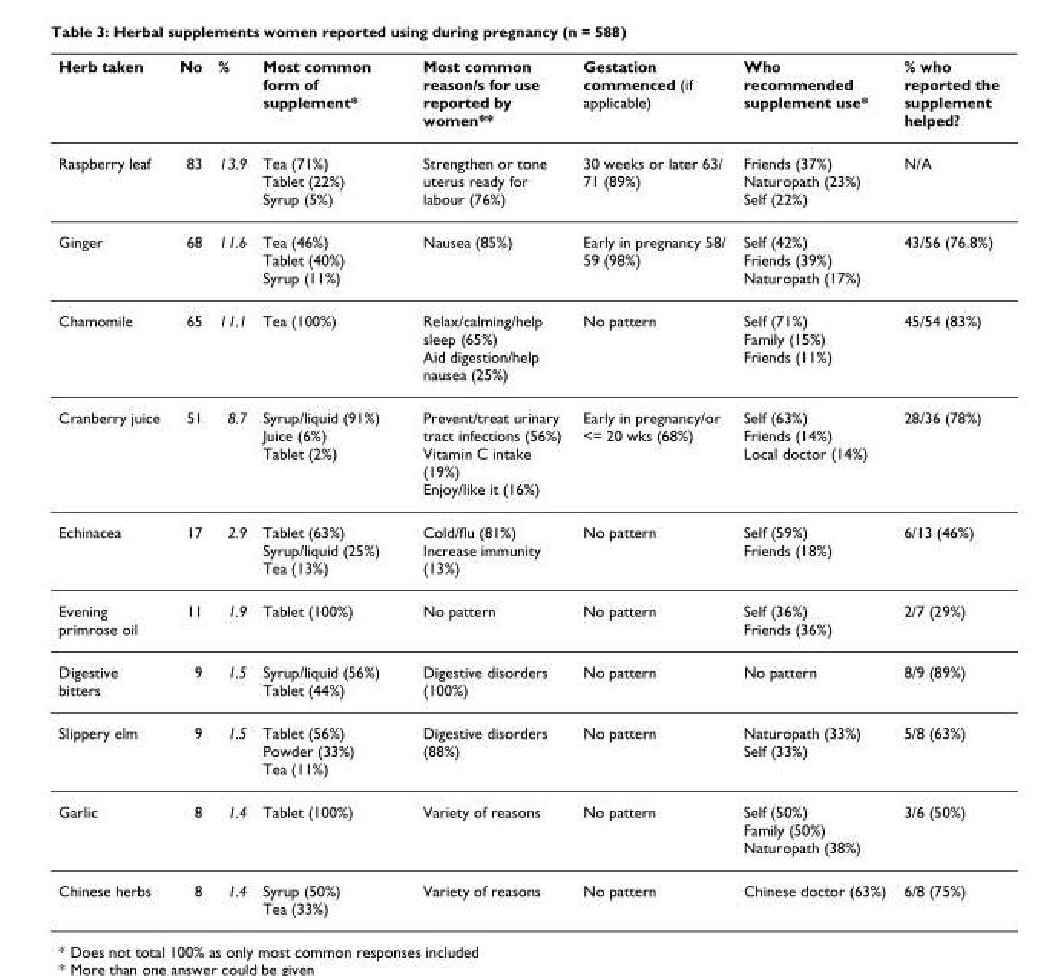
<table><thead><tr><td>Herb taken</td><td>No</td><td>%</td><td>Most common form of supplement*</td><td>Most common reason/s for use reported by women**</td><td>Gestation commenced (if applicable)</td><td>Who recommended supplement use*</td><td>% who reported the supplement helped?</td></tr></thead><tbody><tr><td>Raspberry leaf</td><td>83</td><td>13.9</td><td>Tea (71%) Tablet (22%) Syrup (5%)</td><td>Strengthen or tone uterus ready for labour (76%)</td><td>30 weeks or later 63/ 71 (89%)</td><td>Friends (37%) Naturopath (23%) Self (22%)</td><td>N/A</td></tr><tr><td>Ginger</td><td>68</td><td>11.6</td><td>Tea (46%) Tablet (40%) Syrup (11%)</td><td>Nausea (85%)</td><td>Early in pregnancy 58/ 59 (98%)</td><td>Self (42%) Friends (39%) Naturopath (17%)</td><td>43/56 (76.8%)</td></tr><tr><td>Chamomile</td><td>65</td><td>11.1</td><td>Tea (100%)</td><td>Relax/calming/help sleep (65%) Aid digestion/help nausea (25%)</td><td>No pattern</td><td>Self (71%) Family (15%) Friends (11%)</td><td>45/54 (83%)</td></tr><tr><td>Cranberry juice</td><td>51</td><td>8.7</td><td>Syrup/liquid (91%) Juice (6%) Tablet (2%)</td><td>Prevent/treat urinary tract infections (56%) Vitamin C intake (19%) Enjoy/like it (16%)</td><td>Early in pregnancy/or &lt;= 20 wks (68%)</td><td>Self (63%) Friends (14%) Local doctor (14%)</td><td>28/36 (78%)</td></tr><tr><td>Echinacea</td><td>17</td><td>2.9</td><td>Tablet (63%) Syrup/liquid (25%) Tea (13%)</td><td>Cold/flu (81%) Increase immunity (13%)</td><td>No pattern</td><td>Self (59%) Friends (18%)</td><td>6/13 (46%)</td></tr><tr><td>Evening primrose oil</td><td>11</td><td>1.9</td><td>Tablet (100%)</td><td>No pattern</td><td>No pattern</td><td>Self (36%) Friends (36%)</td><td>2/7 (29%)</td></tr><tr><td>Digestive bitters</td><td>9</td><td>1.5</td><td>Syrup/liquid (56%) Tablet (44%)</td><td>Digestive disorders (100%)</td><td>No pattern</td><td>No pattern</td><td>8/9 (89%)</td></tr><tr><td>Slippery elm</td><td>9</td><td>1.5</td><td>Tablet (56%) Powder (33%) Tea (11%)</td><td>Digestive disorders (88%)</td><td>No pattern</td><td>Naturopath (33%) Self (33%)</td><td>5/8 (63%)</td></tr><tr><td>Garlic</td><td>8</td><td>1.4</td><td>Tablet (100%)</td><td>Variety of reasons</td><td>No pattern</td><td>Self (50%) Family (50%) Naturopath (38%)</td><td>3/6 (50%)</td></tr><tr><td>Chinese herbs</td><td>8</td><td>1.4</td><td>Syrup (50%) Tea (33%)</td><td>Variety of reasons</td><td>No pattern</td><td>Chinese doctor (63%)</td><td>6/8 (75%)</td></tr></tbody></table>